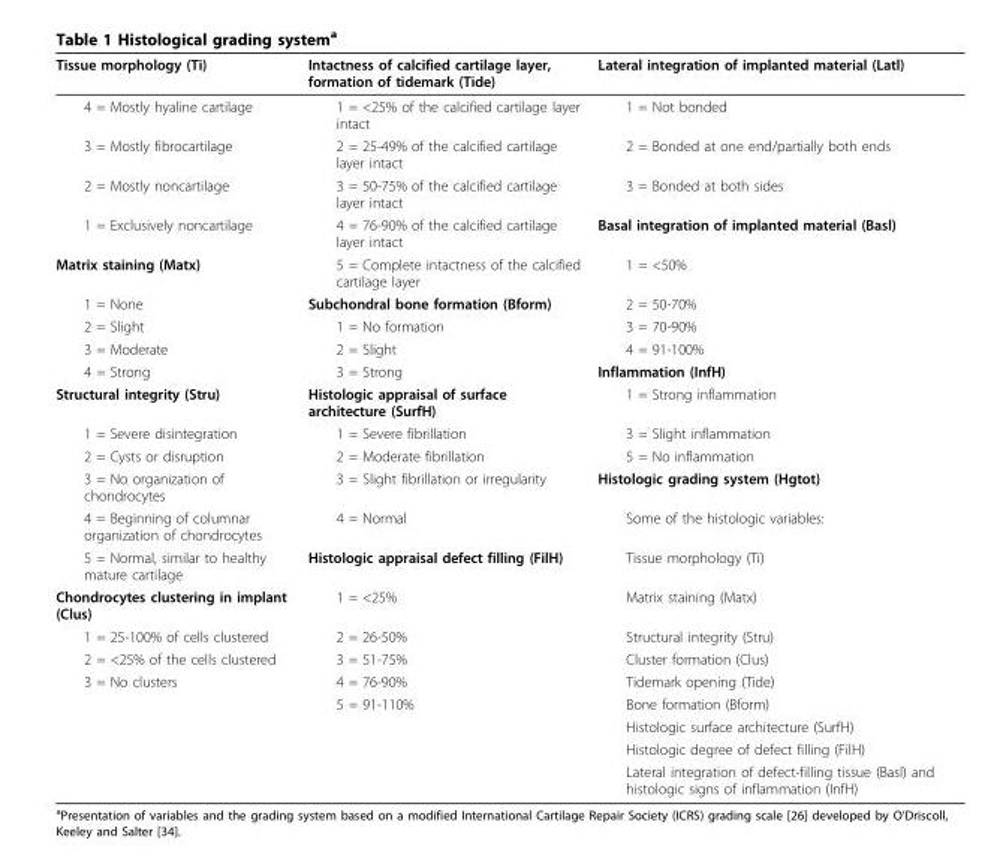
<table><thead><tr><td>Tissue morphology (Ti)</td><td>Intactness of calcified cartilage layer, formation of tidemark (Tide)</td><td>Lateral integration of implanted material (Latl)</td></tr></thead><tbody><tr><td>4 = Mostly hyaline cartilage</td><td>1 = &lt;25% of the calcified cartilage layer intact</td><td>1 = Not bonded</td></tr><tr><td>3 = Mostly fibrocartilage</td><td>2 = 25-49% of the calcified cartilage layer intact</td><td>2 = Bonded at one end/partially both ends</td></tr><tr><td>2 = Mostly noncartilage</td><td>3 = 50-75% of the calcified cartilage layer intact</td><td>3 = Bonded at both sides</td></tr><tr><td>1 = Exclusively noncartilage</td><td>4 = 76-90% of the calcified cartilage layer intact</td><td>Basal integration of implanted material (Basl)</td></tr><tr><td>Matrix staining (Matx)</td><td>5 = Complete intactness of the calcified cartilage layer</td><td>1 = &lt;50%</td></tr><tr><td>1 = None</td><td>Subchondral bone formation (Bform)</td><td>2 = 50-70%</td></tr><tr><td>2 = Slight</td><td>1 = No formation</td><td>3 = 70-90%</td></tr><tr><td>3 = Moderate</td><td>2 = Slight</td><td>4 = 91-100%</td></tr><tr><td>4 = Strong</td><td>3 = Strong</td><td>Inflammation (InfH)</td></tr><tr><td>Structural integrity (Stru)</td><td>Histologic appraisal of surface architecture (SurfH)</td><td>1 = Strong inflammation</td></tr><tr><td>1 = Severe disintegration</td><td>1 = Severe fibrillation</td><td>3 = Slight inflammation</td></tr><tr><td>2 = Cysts or disruption</td><td>2 = Moderate fibrillation</td><td>5 = No inflammation</td></tr><tr><td>3 = No organization of chondrocytes</td><td>3 = Slight fibrillation or irregularity</td><td>Histologic grading system (Hgtot)</td></tr><tr><td>4 = Beginning of columnar organization of chondrocytes</td><td>4 = Normal</td><td>Some of the histologic variables:</td></tr><tr><td>5 = Normal, similar to healthy mature cartilage</td><td>Histologic appraisal defect filling (FilH)</td><td>Tissue morphology (Ti)</td></tr><tr><td>Chondrocytes clustering in implant (Clus)</td><td>1 = &lt;25%</td><td>Matrix staining (Matx)</td></tr><tr><td>1 = 25-100% of cells clustered</td><td>2 = 26-50%</td><td>Structural integrity (Stru)</td></tr><tr><td>2 = &lt;25% of the cells clustered</td><td>3 = 51-75%</td><td>Cluster formation (Clus)</td></tr><tr><td rowspan="5">3 = No clusters</td><td>4 = 76-90%</td><td>Tidemark opening (Tide)</td></tr><tr><td>5 = 91-110%</td><td>Bone formation (Bform)</td></tr><tr><td></td><td>Histologic surface architecture (SurfH)</td></tr><tr><td></td><td>Histologic degree of defect filling (FilH)</td></tr><tr><td></td><td>Lateral integration of defect-filling tissue (Basl) and histologic signs of inflammation (InfH)</td></tr></tbody></table>